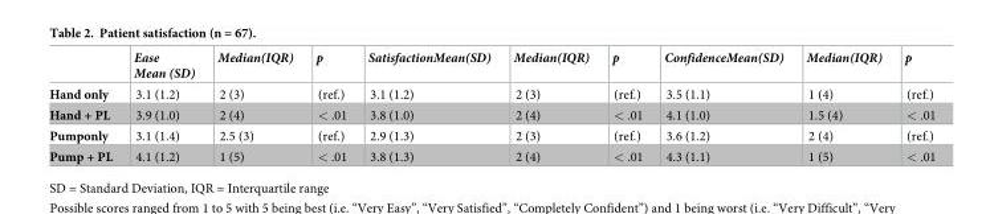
<table><thead><tr><td></td><td>Ease Mean (SD)</td><td>Median(IQR)</td><td>p</td><td>SatisfactionMean(SD)</td><td>Median(IQR)</td><td>p</td><td>ConfidenceMean(SD)</td><td>Median(IQR)</td><td>p</td></tr></thead><tbody><tr><td>Hand only</td><td>3.1 (1.2)</td><td>2 (3)</td><td>(ref.)</td><td>3.1 (1.2)</td><td>2 (3)</td><td>(ref.)</td><td>3.5 (1.1)</td><td>1 (4)</td><td>(ref.)</td></tr><tr><td>Hand + PL</td><td>3.9 (1.0)</td><td>2 (4)</td><td>&lt; .01</td><td>3.8 (1.0)</td><td>2 (4)</td><td>&lt; .01</td><td>4.1 (1.0)</td><td>1.5 (4)</td><td>&lt; .01</td></tr><tr><td>Pumponly</td><td>3.1 (1.4)</td><td>2.5 (3)</td><td>(ref.)</td><td>2.9 (1.3)</td><td>2 (3)</td><td>(ref.)</td><td>3.6 (1.2)</td><td>2 (4)</td><td>(ref.)</td></tr><tr><td>Pump + PL</td><td>4.1 (1.2)</td><td>1 (5)</td><td>&lt; .01</td><td>3.8 (1.3)</td><td>2 (4)</td><td>&lt; .01</td><td>4.3 (1.1)</td><td>1 (5)</td><td>&lt; .01</td></tr></tbody></table>